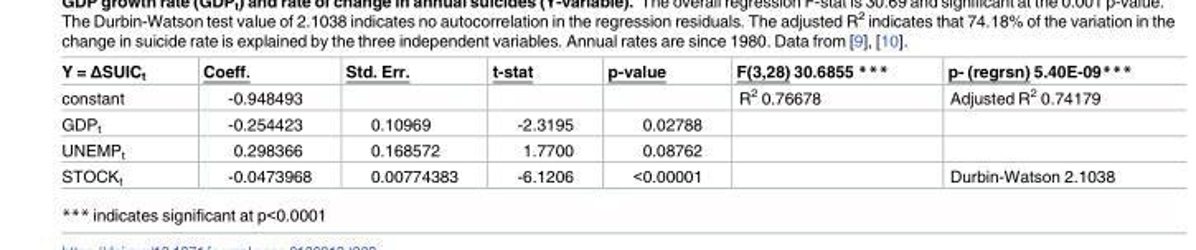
<table><thead><tr><td>Y = ΔSUIC<sub>t</sub></td><td>Coeff.</td><td>Std. Err.</td><td>t-stat</td><td>p-value</td><td>F(3,28) 30.6855 ***</td><td>p- (regrsn) 5.40E-09***</td></tr></thead><tbody><tr><td>constant</td><td>-0.948493</td><td></td><td></td><td></td><td>R<sup>2</sup> 0.76678</td><td>Adjusted R<sup>2</sup> 0.74179</td></tr><tr><td>GDP<sub>t</sub></td><td>-0.254423</td><td>0.10969</td><td>-2.3195</td><td>0.02788</td><td></td><td></td></tr><tr><td>UNEMP<sub>t</sub></td><td>0.298366</td><td>0.168572</td><td>1.7700</td><td>0.08762</td><td></td><td></td></tr><tr><td>STOCK<sub>t</sub></td><td>-0.0473968</td><td>0.00774383</td><td>-6.1206</td><td>&lt;0.00001</td><td></td><td>Durbin-Watson 2.1038</td></tr></tbody></table>